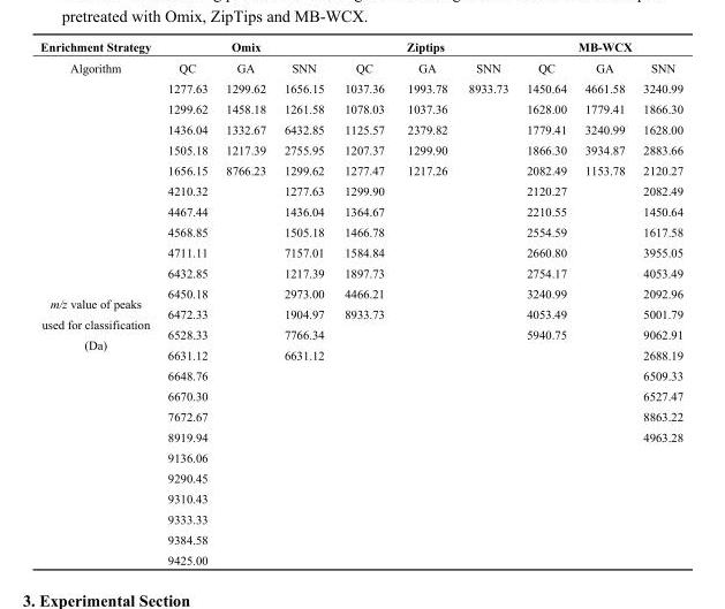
<table><thead><tr><td rowspan="2">Enrichment Strategy Algorithm</td><td colspan="3">Omix</td><td colspan="3">Ziptips</td><td colspan="3">MB-WCX</td></tr><tr><td>QC</td><td>GA</td><td>SNN</td><td>QC</td><td>GA</td><td>SNN</td><td>QC</td><td>GA</td><td>SNN</td></tr></thead><tbody><tr><td rowspan="24">m/z value of peaks used for classification (Da)</td><td>1277.63</td><td>1299.62</td><td>1656.15</td><td>1037.36</td><td>1993.78</td><td>8933.73</td><td>1450.64</td><td>4661.58</td><td>3240.99</td></tr><tr><td>1299.62</td><td>1458.18</td><td>1261.58</td><td>1078.03</td><td>1037.36</td><td rowspan="23"></td><td>1628.00</td><td>1779.41</td><td>1866.30</td></tr><tr><td>1436.04</td><td>1332.67</td><td>6432.85</td><td>1125.57</td><td>2379.82</td><td>1779.41</td><td>3240.99</td><td>1628.00</td></tr><tr><td>1505.18</td><td>1217.39</td><td>2755.95</td><td>1207.37</td><td>1299.90</td><td>1866.30</td><td>3934.87</td><td>2883.66</td></tr><tr><td>1656.15</td><td>8766.23</td><td>1299.62</td><td>1277.47</td><td>1217.26</td><td>2082.49</td><td>1153.78</td><td>2120.27</td></tr><tr><td>4210.32</td><td rowspan="19"></td><td>1277.63</td><td>1299.90</td><td rowspan="19"></td><td>2120.27</td><td rowspan="19"></td><td>2082.49</td></tr><tr><td>4467.44</td><td>1436.04</td><td>1364.67</td><td>2210.55</td><td>1450.64</td></tr><tr><td>4568.85</td><td>1505.18</td><td>1466.78</td><td>2554.59</td><td>1617.58</td></tr><tr><td>4711.11</td><td>7157.01</td><td>1584.84</td><td>2660.80</td><td>3955.05</td></tr><tr><td>6432.85</td><td>1217.39</td><td>1897.73</td><td>2754.17</td><td>4053.49</td></tr><tr><td>6450.18</td><td>2973.00</td><td>4466.21</td><td>3240.99</td><td>2092.96</td></tr><tr><td>6472.33</td><td>1904.97</td><td>8933.73</td><td>4053.49</td><td>5001.79</td></tr><tr><td>6528.33</td><td>7766.34</td><td rowspan="12"></td><td>5940.75</td><td>9062.91</td></tr><tr><td>6631.12</td><td>6631.12</td><td rowspan="11"></td><td>2688.19</td></tr><tr><td>6648.76</td><td rowspan="10"></td><td>6509.33</td></tr><tr><td>6670.30</td><td>6527.47</td></tr><tr><td>7672.67</td><td>8863.22</td></tr><tr><td>8919.94</td><td>4963.28</td></tr><tr><td>9136.06</td><td rowspan="6"></td></tr><tr><td>9290.45</td></tr><tr><td>9310.43</td></tr><tr><td>9333.33</td></tr><tr><td>9384.58</td></tr><tr><td>9425.00</td></tr></tbody></table>